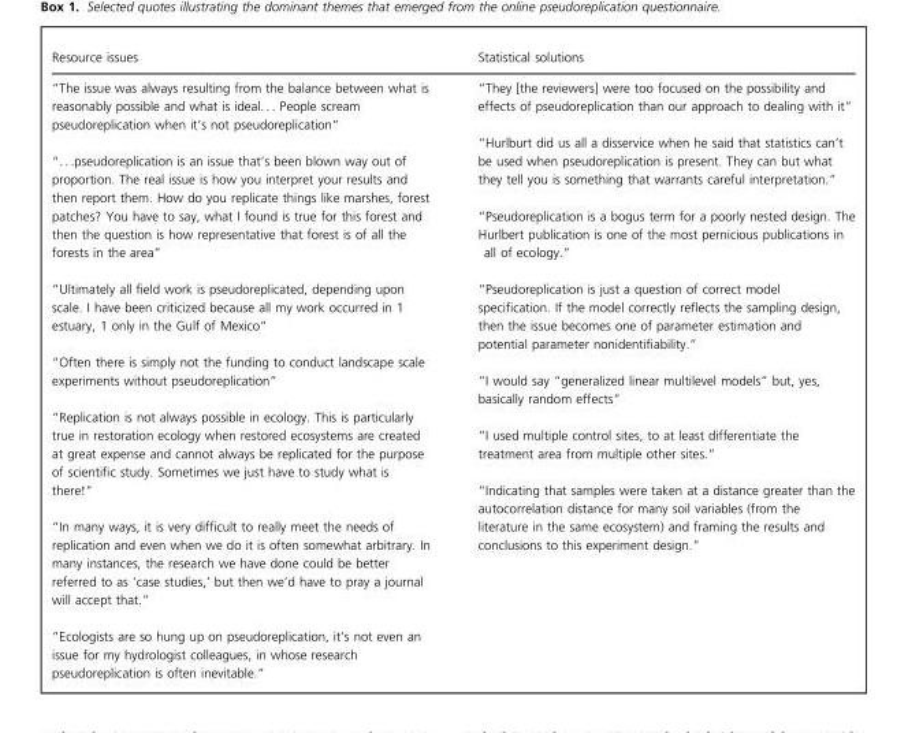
<table><thead><tr><td>Resource issues</td><td>Statistical solutions</td></tr></thead><tbody><tr><td>“The issue was always resulting from the balance between what is</td><td>“They [the reviewers] were too focused on the possibility and</td></tr><tr><td>reasonably possible and what is ideal. . . People scream</td><td>effects of pseudoreplication than our approach to dealing with it”</td></tr><tr><td colspan="2">pseudoreplication when it’s not pseudoreplication”</td></tr><tr><td></td><td>“Hurlburt did us all a disservice when he said that statistics can’t</td></tr><tr><td>“. . .pseudoreplication is an issue that’s been blown way out of</td><td>be used when pseudoreplication is present. They can but what</td></tr><tr><td>proportion. The real issue is how you interpret your results and</td><td>they tell you is something that warrants careful interpretation.”</td></tr><tr><td colspan="2">then report them. How do you replicate things like marshes, forest</td></tr><tr><td>patches? You have to say, what I found is true for this forest and</td><td>“Pseudoreplication is a bogus term for a poorly nested design. The</td></tr><tr><td>then the question is how representative that forest is of all the forests in the area”</td><td>Hurlbert publication is one of the most pernicious publications in all of ecology.”</td></tr><tr><td>“Ultimately all field work is pseudoreplicated, depending upon</td><td>“Pseudoreplication is just a question of correct model</td></tr><tr><td>scale. I have been criticized because all my work occurred in 1</td><td>specification. If the model correctly reflects the sampling design,</td></tr><tr><td rowspan="2">estuary, 1 only in the Gulf of Mexico”</td><td>then the issue becomes one of parameter estimation and</td></tr><tr><td>potential parameter nonidentifiability.”</td></tr><tr><td colspan="2">“Often there is simply not the funding to conduct landscape scale</td></tr><tr><td rowspan="2">experiments without pseudoreplication”</td><td>“I would say “generalized linear multilevel models” but, yes,</td></tr><tr><td>basically random effects”</td></tr><tr><td colspan="2">“Replication is not always possible in ecology. This is particularly</td></tr><tr><td>true in restoration ecology when restored ecosystems are created</td><td>“I used multiple control sites, to at least differentiate the</td></tr><tr><td>at great expense and cannot always be replicated for the purpose</td><td>treatment area from multiple other sites.”</td></tr><tr><td colspan="2">of scientific study. Sometimes we just have to study what is</td></tr><tr><td rowspan="2">there!”</td><td>“Indicating that samples were taken at a distance greater than the</td></tr><tr><td>autocorrelation distance for many soil variables (from the</td></tr><tr><td>“In many ways, it is very difficult to really meet the needs of</td><td>literature in the same ecosystem) and framing the results and</td></tr><tr><td>replication and even when we do it is often somewhat arbitrary. In</td><td>conclusions to this experiment design.”</td></tr><tr><td colspan="2">many instances, the research we have done could be better</td></tr><tr><td colspan="2">referred to as ‘case studies,’ but then we’d have to pray a journal</td></tr><tr><td colspan="2">will accept that.”</td></tr><tr><td colspan="2">“Ecologists are so hung up on pseudoreplication, it’s not even an</td></tr><tr><td colspan="2">issue for my hydrologist colleagues, in whose research</td></tr><tr><td>pseudoreplication is often inevitable.”</td><td></td></tr></tbody></table>